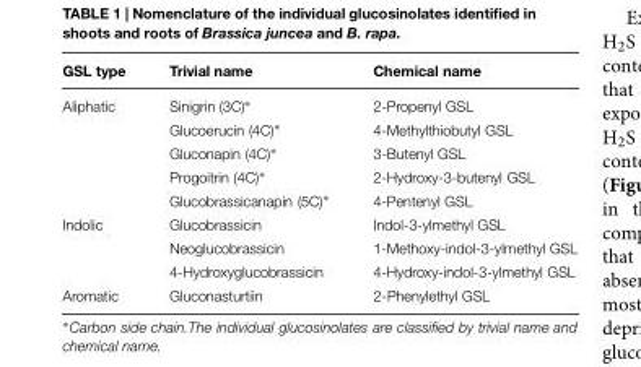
<table><thead><tr><td>GSL type</td><td>Trivial name</td><td>Chemical name</td></tr></thead><tbody><tr><td rowspan="5">Aliphatic</td><td>Sinigrin (3C)∗</td><td>2-Propenyl GSL</td></tr><tr><td>Glucoerucin (4C)∗</td><td>4-Methylthiobutyl GSL</td></tr><tr><td>Gluconapin (4C)∗</td><td>3-Butenyl GSL</td></tr><tr><td>Progoitrin (4C)∗</td><td>2-Hydroxy-3-butenyl GSL</td></tr><tr><td>Glucobrassicanapin (5C)∗</td><td>4-Pentenyl GSL</td></tr><tr><td rowspan="3">Indolic</td><td>Glucobrassicin</td><td>Indol-3-ylmethyl GSL</td></tr><tr><td>Neoglucobrassicin</td><td>1-Methoxy-indol-3-ylmethyl GSL</td></tr><tr><td>4-Hydroxyglucobrassicin</td><td>4-Hydroxy-indol-3-ylmethyl GSL</td></tr><tr><td>Aromatic</td><td>Gluconasturtiin</td><td>2-Phenylethyl GSL</td></tr></tbody></table>